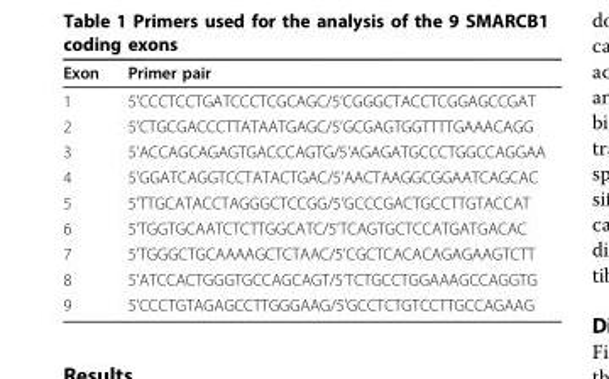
<table><thead><tr><td>Exon</td><td>Primer pair</td></tr></thead><tbody><tr><td>1</td><td>5’CCCTCCTGATCCCTCGCAGC/5’CGGGCTACCTCGGAGCCGAT</td></tr><tr><td>2</td><td>5’CTGCGACCCTTATAATGAGC/5’GCGAGTGGTTTTGAAACAGG</td></tr><tr><td>3</td><td>5’ACCAGCAGAGTGACCCAGTG/5’AGAGATGCCCTGGCCAGGAA</td></tr><tr><td>4</td><td>5’GGATCAGGTCCTATACTGAC/5’AACTAAGGCGGAATCAGCAC</td></tr><tr><td>5</td><td>5’TTGCATACCTAGGGCTCCGG/5’GCCCGACTGCCTTGTACCAT</td></tr><tr><td>6</td><td>5’TGGTGCAATCTCTTGGCATC/5’TCAGTGCTCCATGATGACAC</td></tr><tr><td>7</td><td>5’TGGGCTGCAAAAGCTCTAAC/5’CGCTCACACAGAGAAGTCTT</td></tr><tr><td>8</td><td>5’ATCCACTGGGTGCCAGCAGT/5’TCTGCCTGGAAAGCCAGGTG</td></tr><tr><td>9</td><td>5’CCCTGTAGAGCCTTGGGAAG/5’GCCTCTGTCCTTGCCAGAAG</td></tr></tbody></table>